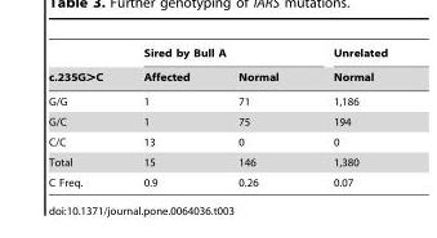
<table><thead><tr><td rowspan="2">c.235G&gt;C</td><td colspan="2">Sired by Bull A</td><td rowspan="2">Unrelated Normal</td></tr><tr><td>Affected</td><td>Normal</td></tr></thead><tbody><tr><td>G/G</td><td>1</td><td>71</td><td>1,186</td></tr><tr><td>G/C</td><td>1</td><td>75</td><td>194</td></tr><tr><td>C/C</td><td>13</td><td>0</td><td>0</td></tr><tr><td>Total</td><td>15</td><td>146</td><td>1,380</td></tr><tr><td>C Freq.</td><td>0.9</td><td>0.26</td><td>0.07</td></tr></tbody></table>